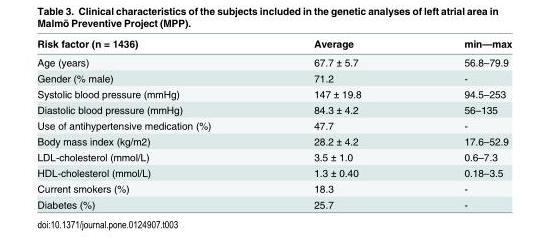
<table><thead><tr><td>Risk factor (n = 1436)</td><td>Average</td><td>min—max</td></tr></thead><tbody><tr><td>Age (years)</td><td>67.7 ± 5.7</td><td>56.8–79.9</td></tr><tr><td>Gender (% male)</td><td>71.2</td><td>-</td></tr><tr><td>Systolic blood pressure (mmHg)</td><td>147 ± 19.8</td><td>94.5–253</td></tr><tr><td>Diastolic blood pressure (mmHg)</td><td>84.3 ± 4.2</td><td>56–135</td></tr><tr><td>Use of antihypertensive medication (%)</td><td>47.7</td><td>-</td></tr><tr><td>Body mass index (kg/m2)</td><td>28.2 ± 4.2</td><td>17.6–52.9</td></tr><tr><td>LDL-cholesterol (mmol/L)</td><td>3.5 ± 1.0</td><td>0.6–7.3</td></tr><tr><td>HDL-cholesterol (mmol/L)</td><td>1.3 ± 0.40</td><td>0.18–3.5</td></tr><tr><td>Current smokers (%)</td><td>18.3</td><td>-</td></tr><tr><td>Diabetes (%)</td><td>25.7</td><td>-</td></tr></tbody></table>